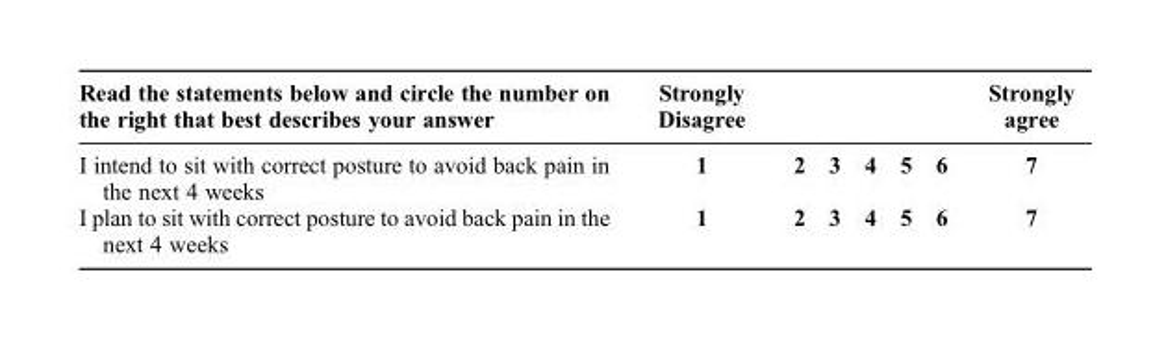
<table><thead><tr><td>Read the statements below and circle the number on the right that best describes your answer</td><td>Strongly Disagree</td><td></td><td></td><td></td><td></td><td></td><td>Strongly agree</td></tr></thead><tbody><tr><td>I intend to sit with correct posture to avoid back pain in the next 4 weeks</td><td>1</td><td>2</td><td>3</td><td>4</td><td>5</td><td>6</td><td>7</td></tr><tr><td>I plan to sit with correct posture to avoid back pain in the next 4 weeks</td><td>1</td><td>2</td><td>3</td><td>4</td><td>5</td><td>6</td><td>7</td></tr></tbody></table>